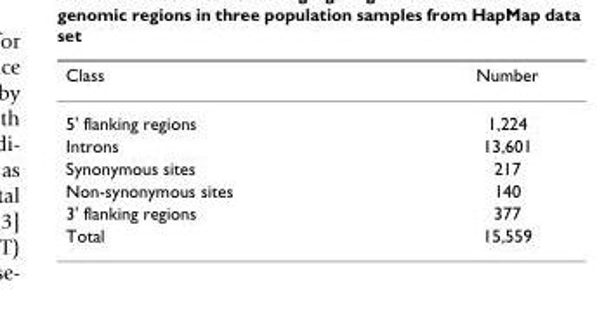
<table><thead><tr><td>Class</td><td>Number</td></tr></thead><tbody><tr><td>5&#x27; flanking regions</td><td>1,224</td></tr><tr><td>Introns</td><td>13,601</td></tr><tr><td>Synonymous sites</td><td>217</td></tr><tr><td>Non-synonymous sites</td><td>140</td></tr><tr><td>3&#x27; flanking regions</td><td>377</td></tr><tr><td>Total</td><td>15,559</td></tr></tbody></table>